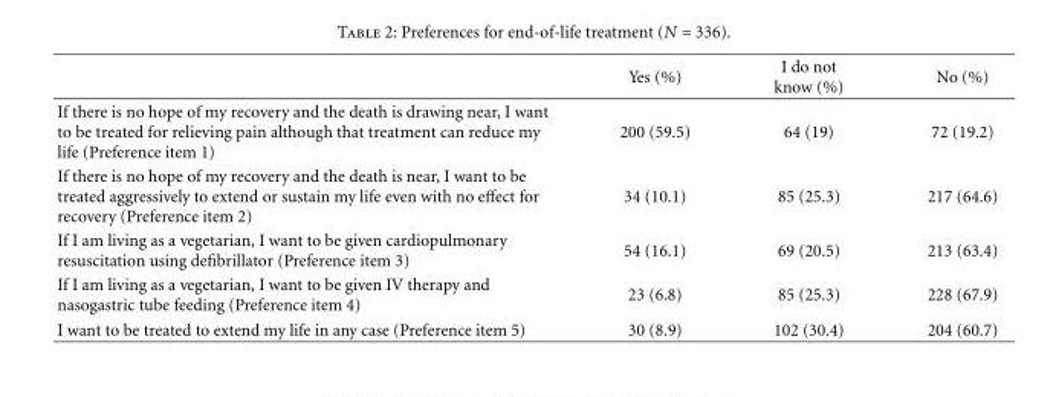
<table><thead><tr><td></td><td>Yes (%)</td><td>I do not know (%)</td><td>No (%)</td></tr></thead><tbody><tr><td>If there is no hope of my recovery and the death is drawing near, I want to be treated for relieving pain although that treatment can reduce my life (Preference item 1)</td><td>200 (59.5)</td><td>64 (19)</td><td>72 (19.2)</td></tr><tr><td>If there is no hope of my recovery and the death is near, I want to be treated aggressively to extend or sustain my life even with no effect for recovery (Preference item 2)</td><td>34 (10.1)</td><td>85 (25.3)</td><td>217 (64.6)</td></tr><tr><td>If I am living as a vegetarian, I want to be given cardiopulmonary resuscitation using defibrillator (Preference item 3)</td><td>54 (16.1)</td><td>69 (20.5)</td><td>213 (63.4)</td></tr><tr><td>If I am living as a vegetarian, I want to be given IV therapy and nasogastric tube feeding (Preference item 4)</td><td>23 (6.8)</td><td>85 (25.3)</td><td>228 (67.9)</td></tr><tr><td>I want to be treated to extend my life in any case (Preference item 5)</td><td>30 (8.9)</td><td>102 (30.4)</td><td>204 (60.7)</td></tr></tbody></table>